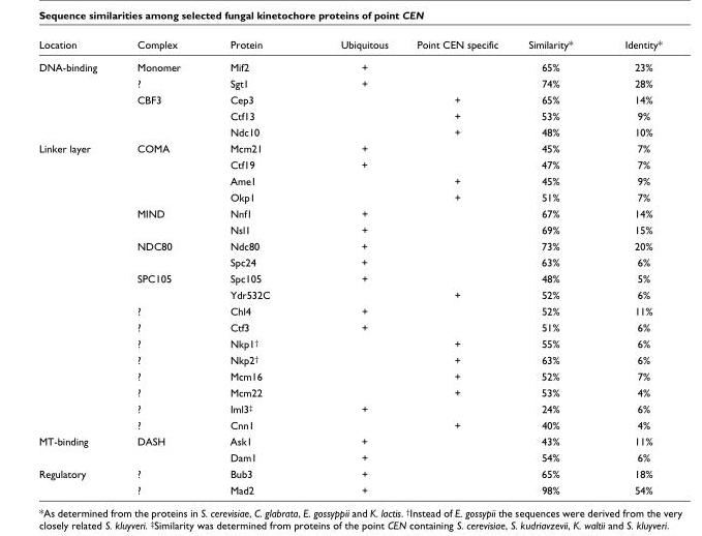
<table><thead><tr><td>Location</td><td>Complex</td><td>Protein</td><td>Ubiquitous</td><td>Point CEN specific</td><td>Similarity*</td><td>Identity*</td></tr></thead><tbody><tr><td rowspan="5">DNA-binding</td><td>Monomer</td><td>Mif2</td><td>+</td><td></td><td>65%</td><td>23%</td></tr><tr><td>?</td><td>Sgt1</td><td>+</td><td></td><td>74%</td><td>28%</td></tr><tr><td>CBF3</td><td>Cep3</td><td></td><td>+</td><td>65%</td><td>14%</td></tr><tr><td></td><td>Ctf13</td><td></td><td>+</td><td>53%</td><td>9%</td></tr><tr><td></td><td>Ndc10</td><td></td><td>+</td><td>48%</td><td>10%</td></tr><tr><td rowspan="18">Linker layer</td><td>COMA</td><td>Mcm21</td><td>+</td><td></td><td>45%</td><td>7%</td></tr><tr><td></td><td>Ctf19</td><td>+</td><td></td><td>47%</td><td>7%</td></tr><tr><td></td><td>Ame1</td><td></td><td>+</td><td>45%</td><td>9%</td></tr><tr><td></td><td>Okp1</td><td></td><td>+</td><td>51%</td><td>7%</td></tr><tr><td>MIND</td><td>Nnf1</td><td>+</td><td></td><td>67%</td><td>14%</td></tr><tr><td></td><td>Nsl1</td><td>+</td><td></td><td>69%</td><td>15%</td></tr><tr><td>NDC80</td><td>Ndc80</td><td>+</td><td></td><td>73%</td><td>20%</td></tr><tr><td></td><td>Spc24</td><td>+</td><td></td><td>63%</td><td>6%</td></tr><tr><td>SPC105</td><td>Spc105</td><td>+</td><td></td><td>48%</td><td>5%</td></tr><tr><td></td><td>Ydr532C</td><td></td><td>+</td><td>52%</td><td>6%</td></tr><tr><td>?</td><td>Chl4</td><td>+</td><td></td><td>52%</td><td>11%</td></tr><tr><td>?</td><td>Ctf3</td><td>+</td><td></td><td>51%</td><td>6%</td></tr><tr><td>?</td><td>Nkp1†</td><td></td><td>+</td><td>55%</td><td>6%</td></tr><tr><td>?</td><td>Nkp2†</td><td></td><td>+</td><td>63%</td><td>6%</td></tr><tr><td>?</td><td>Mcm16</td><td></td><td>+</td><td>52%</td><td>7%</td></tr><tr><td>?</td><td>Mcm22</td><td></td><td>+</td><td>53%</td><td>4%</td></tr><tr><td>?</td><td>Iml3‡</td><td>+</td><td></td><td>24%</td><td>6%</td></tr><tr><td>?</td><td>Cnn1</td><td></td><td>+</td><td>40%</td><td>4%</td></tr><tr><td rowspan="2">MT-binding</td><td>DASH</td><td>Ask1</td><td>+</td><td></td><td>43%</td><td>11%</td></tr><tr><td></td><td>Dam1</td><td>+</td><td></td><td>54%</td><td>6%</td></tr><tr><td rowspan="2">Regulatory</td><td>?</td><td>Bub3</td><td>+</td><td></td><td>65%</td><td>18%</td></tr><tr><td>?</td><td>Mad2</td><td>+</td><td></td><td>98%</td><td>54%</td></tr></tbody></table>